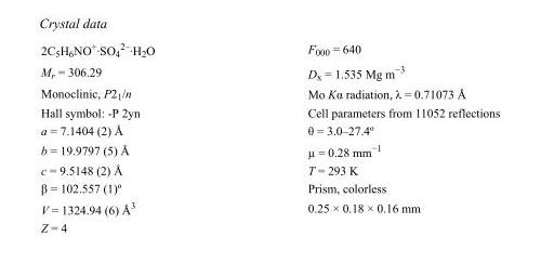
<table><tbody><tr><td>2C<sub>5</sub>H<sub>6</sub>NO<sup>+</sup>·SO<sub>4</sub> <sup>2–</sup>·H<sub>2</sub>O</td><td>F000 = 640</td></tr><tr><td>M<sub>r</sub> = 306.29</td><td>D<sub>x</sub> = 1.535 Mg m<sup>−3</sup></td></tr><tr><td>Monoclinic, P2<sub>1</sub>/n</td><td>Mo Kα radiation, λ = 0.71073 Å</td></tr><tr><td>Hall symbol: -P 2yn</td><td>Cell parameters from 11052 reflections</td></tr><tr><td>a = 7.1404 (2) Å</td><td>θ = 3.0–27.4º</td></tr><tr><td>b = 19.9797 (5) Å</td><td>µ = 0.28 mm<sup>−1</sup></td></tr><tr><td>c = 9.5148 (2) Å</td><td>T = 293 K</td></tr><tr><td>β = 102.557 (1)º</td><td>Prism, colorless</td></tr><tr><td>V = 1324.94 (6) Å<sup>3</sup></td><td>0.25 × 0.18 × 0.16 mm</td></tr><tr><td>Z = 4</td><td></td></tr></tbody></table>